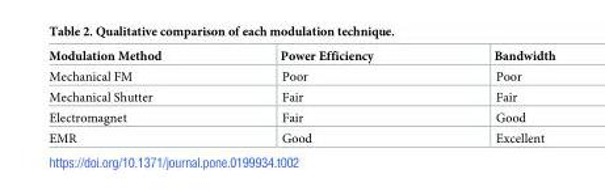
<table><thead><tr><td>Modulation Method</td><td>Power Efficiency</td><td>Bandwidth</td></tr></thead><tbody><tr><td>Mechanical FM</td><td>Poor</td><td>Poor</td></tr><tr><td>Mechanical Shutter</td><td>Fair</td><td>Fair</td></tr><tr><td>Electromagnet</td><td>Fair</td><td>Good</td></tr><tr><td>EMR</td><td>Good</td><td>Excellent</td></tr></tbody></table>